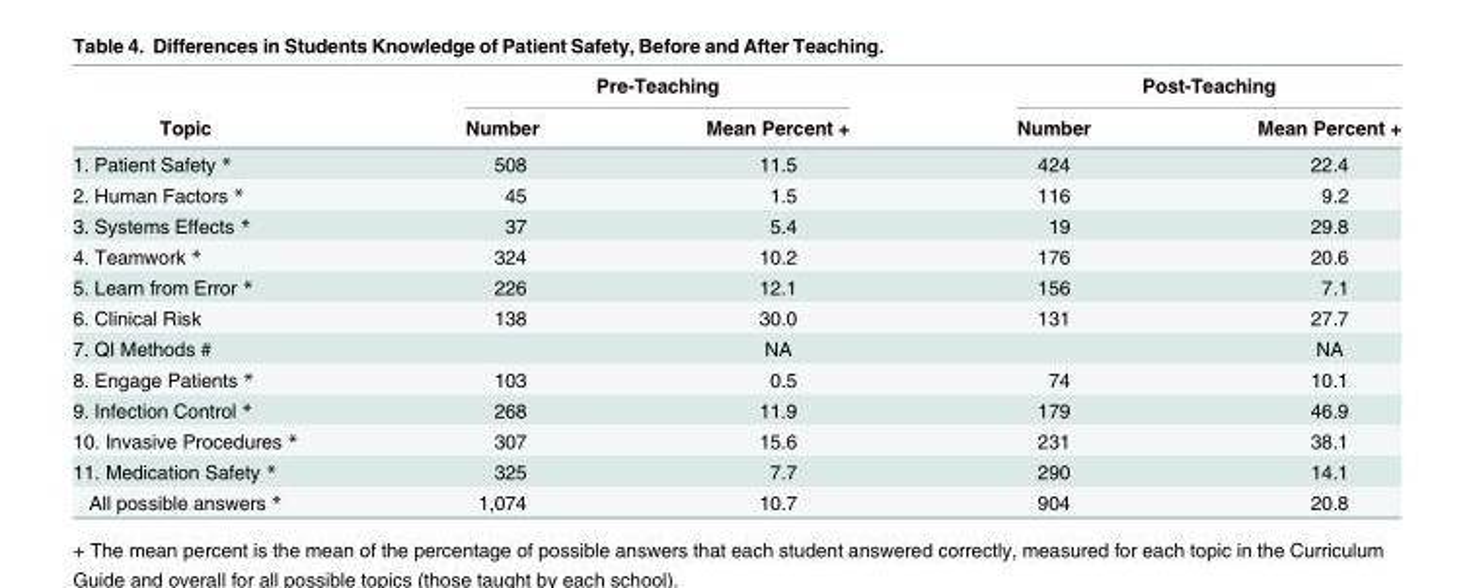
<table><thead><tr><td rowspan="2">Topic</td><td colspan="2">Pre-Teaching</td><td colspan="2">Post-Teaching</td></tr><tr><td>Number</td><td>Mean Percent +</td><td>Number</td><td>Mean Percent +</td></tr></thead><tbody><tr><td>1. Patient Safety *</td><td>508</td><td>11.5</td><td>424</td><td>22.4</td></tr><tr><td>2. Human Factors *</td><td>45</td><td>1.5</td><td>116</td><td>9.2</td></tr><tr><td>3. Systems Effects *</td><td>37</td><td>5.4</td><td>19</td><td>29.8</td></tr><tr><td>4. Teamwork *</td><td>324</td><td>10.2</td><td>176</td><td>20.6</td></tr><tr><td>5. Learn from Error *</td><td>226</td><td>12.1</td><td>156</td><td>7.1</td></tr><tr><td>6. Clinical Risk</td><td>138</td><td>30.0</td><td>131</td><td>27.7</td></tr><tr><td>7. QI Methods #</td><td></td><td>NA</td><td></td><td>NA</td></tr><tr><td>8. Engage Patients *</td><td>103</td><td>0.5</td><td>74</td><td>10.1</td></tr><tr><td>9. Infection Control *</td><td>268</td><td>11.9</td><td>179</td><td>46.9</td></tr><tr><td>10. Invasive Procedures *</td><td>307</td><td>15.6</td><td>231</td><td>38.1</td></tr><tr><td>11. Medication Safety *</td><td>325</td><td>7.7</td><td>290</td><td>14.1</td></tr><tr><td>All possible answers *</td><td>1,074</td><td>10.7</td><td>904</td><td>20.8</td></tr></tbody></table>